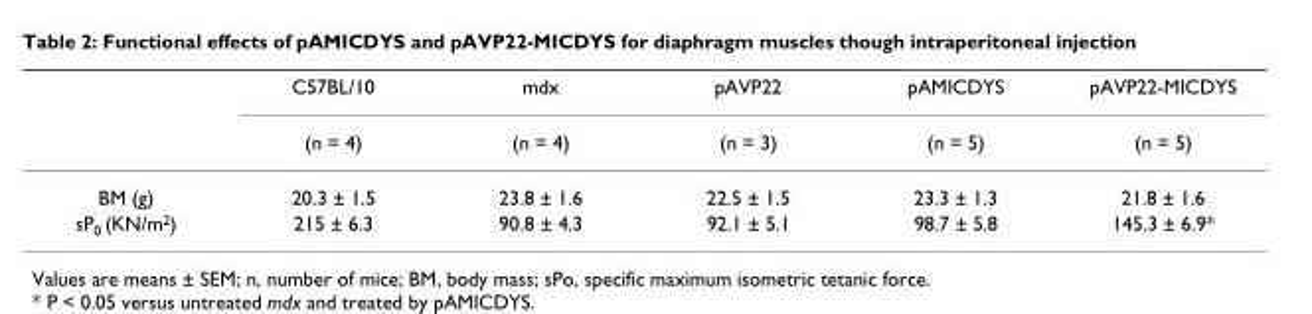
<table><thead><tr><td rowspan="2"></td><td rowspan="2">C57BL/10 (n = 4)</td><td rowspan="2">mdx (n = 4)</td><td rowspan="2">pAVP22 (n = 3)</td><td rowspan="2">pAMICDYS (n = 5)</td><td rowspan="2">pAVP22-MICDYS (n = 5)</td></tr><tr></tr></thead><tbody><tr><td>BM (g)</td><td>20.3 ± 1.5</td><td>23.8 ± 1.6</td><td>22.5 ± 1.5</td><td>23.3 ± 1.3</td><td>21.8 ± 1.6</td></tr><tr><td>sP<sub>0</sub> (KN/m<sup>2</sup>)</td><td>215 ± 6.3</td><td>90.8 ± 4.3</td><td>92.1 ± 5.1</td><td>98.7 ± 5.8</td><td>145.3 ± 6.9*</td></tr></tbody></table>